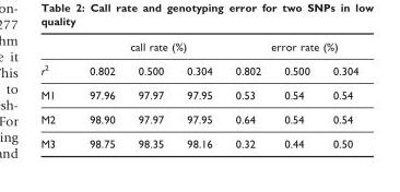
<table><thead><tr><td rowspan="2">r2</td><td colspan="3">call rate (%)</td><td colspan="3">error rate (%)</td></tr><tr><td>0.802</td><td>0.500</td><td>0.304</td><td>0.802</td><td>0.500</td><td>0.304</td></tr></thead><tbody><tr><td>M1</td><td>97.96</td><td>97.97</td><td>97.95</td><td>0.53</td><td>0.54</td><td>0.54</td></tr><tr><td>M2</td><td>98.90</td><td>97.97</td><td>97.95</td><td>0.64</td><td>0.54</td><td>0.54</td></tr><tr><td>M3</td><td>98.75</td><td>98.35</td><td>98.16</td><td>0.32</td><td>0.44</td><td>0.50</td></tr></tbody></table>